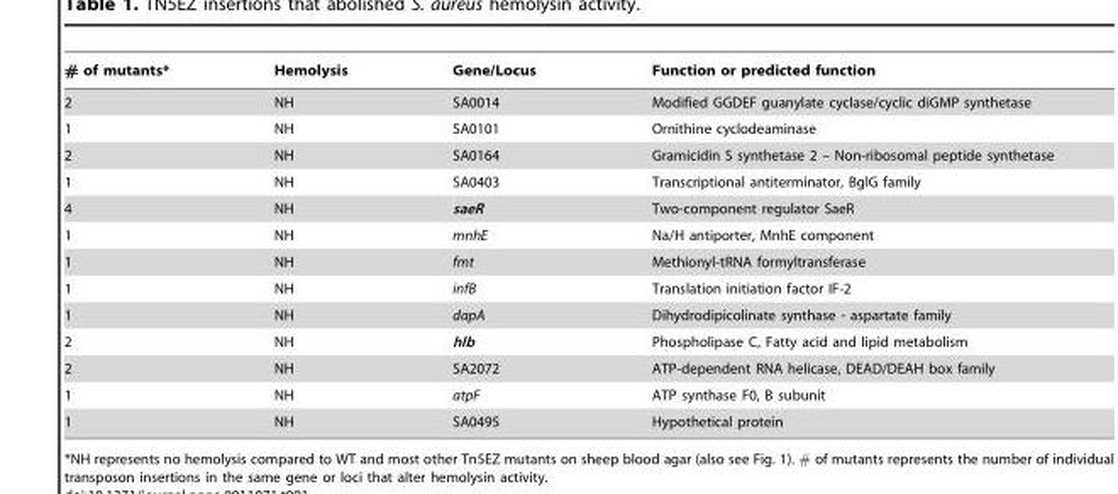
<table><thead><tr><td># of mutants*</td><td>Hemolysis</td><td>Gene/Locus</td><td>Function or predicted function</td></tr></thead><tbody><tr><td>2</td><td>NH</td><td>SA0014</td><td>Modified GGDEF guanylate cyclase/cyclic diGMP synthetase</td></tr><tr><td>1</td><td>NH</td><td>SA0101</td><td>Ornithine cyclodeaminase</td></tr><tr><td>2</td><td>NH</td><td>SA0164</td><td>Gramicidin S synthetase 2 – Non-ribosomal peptide synthetase</td></tr><tr><td>1</td><td>NH</td><td>SA0403</td><td>Transcriptional antiterminator, BglG family</td></tr><tr><td>4</td><td>NH</td><td>saeR</td><td>Two-component regulator SaeR</td></tr><tr><td>1</td><td>NH</td><td>mnhE</td><td>Na/H antiporter, MnhE component</td></tr><tr><td>1</td><td>NH</td><td>fmt</td><td>Methionyl-tRNA formyltransferase</td></tr><tr><td>1</td><td>NH</td><td>infB</td><td>Translation initiation factor IF-2</td></tr><tr><td>1</td><td>NH</td><td>dapA</td><td>Dihydrodipicolinate synthase - aspartate family</td></tr><tr><td>2</td><td>NH</td><td>hlb</td><td>Phospholipase C, Fatty acid and lipid metabolism</td></tr><tr><td>2</td><td>NH</td><td>SA2072</td><td>ATP-dependent RNA helicase, DEAD/DEAH box family</td></tr><tr><td>1</td><td>NH</td><td>atpF</td><td>ATP synthase F0, B subunit</td></tr><tr><td>1</td><td>NH</td><td>SA0495</td><td>Hypothetical protein</td></tr></tbody></table>